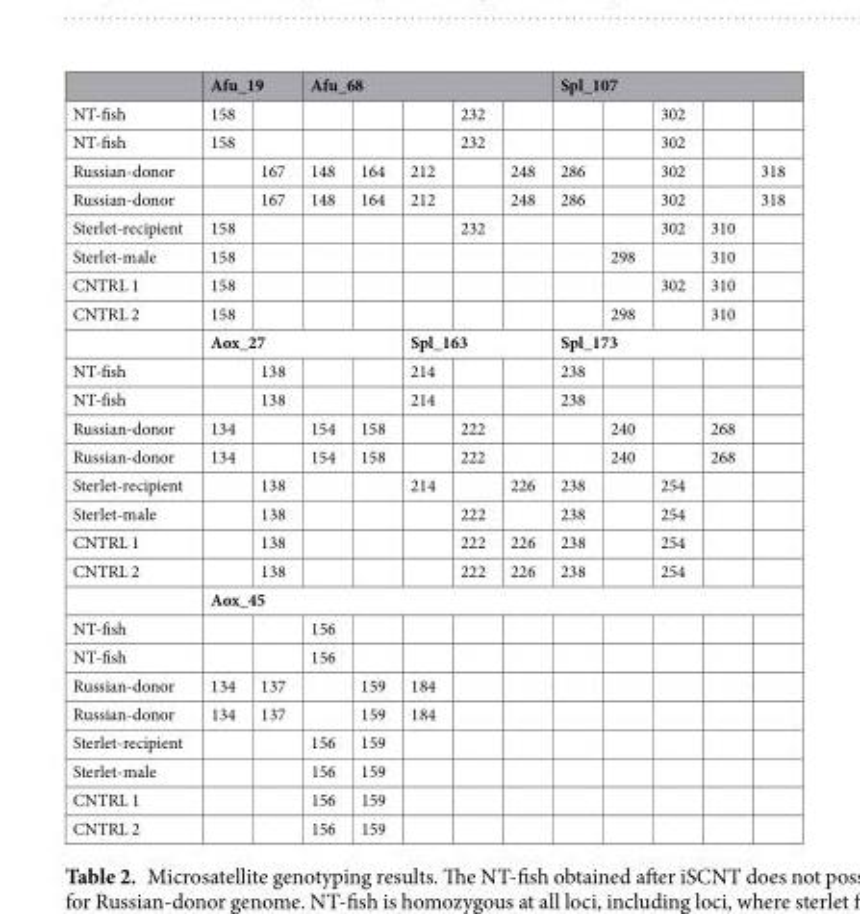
<table><thead><tr><td rowspan="2">NT-fish</td><td colspan="2">Afu_19</td><td colspan="5">Afu_68</td><td colspan="5">Spl_107</td></tr><tr><td>158</td><td></td><td></td><td></td><td></td><td>232</td><td></td><td></td><td></td><td>302</td><td></td><td></td></tr></thead><tbody><tr><td>NT-fish</td><td>158</td><td></td><td></td><td></td><td></td><td>232</td><td></td><td></td><td></td><td>302</td><td></td><td></td></tr><tr><td>Russian-donor</td><td></td><td>167</td><td>148</td><td>164</td><td>212</td><td></td><td>248</td><td>286</td><td></td><td>302</td><td></td><td>318</td></tr><tr><td>Russian-donor</td><td></td><td>167</td><td>148</td><td>164</td><td>212</td><td></td><td>248</td><td>286</td><td></td><td>302</td><td></td><td>318</td></tr><tr><td>Sterlet-recipient</td><td>158</td><td></td><td></td><td></td><td></td><td>232</td><td></td><td></td><td></td><td>302</td><td>310</td><td></td></tr><tr><td>Sterlet-male</td><td>158</td><td></td><td></td><td></td><td></td><td></td><td></td><td></td><td>298</td><td></td><td>310</td><td></td></tr><tr><td>CNTRL 1</td><td>158</td><td></td><td></td><td></td><td></td><td></td><td></td><td></td><td></td><td>302</td><td>310</td><td></td></tr><tr><td rowspan="2">CNTRL 2</td><td>158</td><td></td><td></td><td></td><td></td><td></td><td></td><td></td><td>298</td><td></td><td>310</td><td></td></tr><tr><td colspan="4">Aox_27</td><td colspan="3">Spl_163</td><td colspan="4">Spl_173</td><td></td></tr><tr><td>NT-fish</td><td></td><td>138</td><td></td><td></td><td>214</td><td></td><td></td><td>238</td><td></td><td></td><td></td><td></td></tr><tr><td>NT-fish</td><td></td><td>138</td><td></td><td></td><td>214</td><td></td><td></td><td>238</td><td></td><td></td><td></td><td></td></tr><tr><td>Russian-donor</td><td>134</td><td></td><td>154</td><td>158</td><td></td><td>222</td><td></td><td></td><td>240</td><td></td><td>268</td><td></td></tr><tr><td>Russian-donor</td><td>134</td><td></td><td>154</td><td>158</td><td></td><td>222</td><td></td><td></td><td>240</td><td></td><td>268</td><td></td></tr><tr><td>Sterlet-recipient</td><td></td><td>138</td><td></td><td></td><td>214</td><td></td><td>226</td><td>238</td><td></td><td>254</td><td></td><td></td></tr><tr><td>Sterlet-male</td><td></td><td>138</td><td></td><td></td><td></td><td>222</td><td></td><td>238</td><td></td><td>254</td><td></td><td></td></tr><tr><td>CNTRL 1</td><td></td><td>138</td><td></td><td></td><td></td><td>222</td><td>226</td><td>238</td><td></td><td>254</td><td></td><td></td></tr><tr><td rowspan="2">CNTRL 2</td><td></td><td>138</td><td></td><td></td><td></td><td>222</td><td>226</td><td>238</td><td></td><td>254</td><td></td><td></td></tr><tr><td colspan="12">Aox_45</td></tr><tr><td>NT-fish</td><td></td><td></td><td>156</td><td></td><td></td><td></td><td></td><td></td><td></td><td></td><td></td><td></td></tr><tr><td>NT-fish</td><td></td><td></td><td>156</td><td></td><td></td><td></td><td></td><td></td><td></td><td></td><td></td><td></td></tr><tr><td>Russian-donor</td><td>134</td><td>137</td><td></td><td>159</td><td>184</td><td></td><td></td><td></td><td></td><td></td><td></td><td></td></tr><tr><td>Russian-donor</td><td>134</td><td>137</td><td></td><td>159</td><td>184</td><td></td><td></td><td></td><td></td><td></td><td></td><td></td></tr><tr><td>Sterlet-recipient</td><td></td><td></td><td>156</td><td>159</td><td></td><td></td><td></td><td></td><td></td><td></td><td></td><td></td></tr><tr><td>Sterlet-male</td><td></td><td></td><td>156</td><td>159</td><td></td><td></td><td></td><td></td><td></td><td></td><td></td><td></td></tr><tr><td>CNTRL 1</td><td></td><td></td><td>156</td><td>159</td><td></td><td></td><td></td><td></td><td></td><td></td><td></td><td></td></tr><tr><td>CNTRL 2</td><td></td><td></td><td>156</td><td>159</td><td></td><td></td><td></td><td></td><td></td><td></td><td></td><td></td></tr></tbody></table>